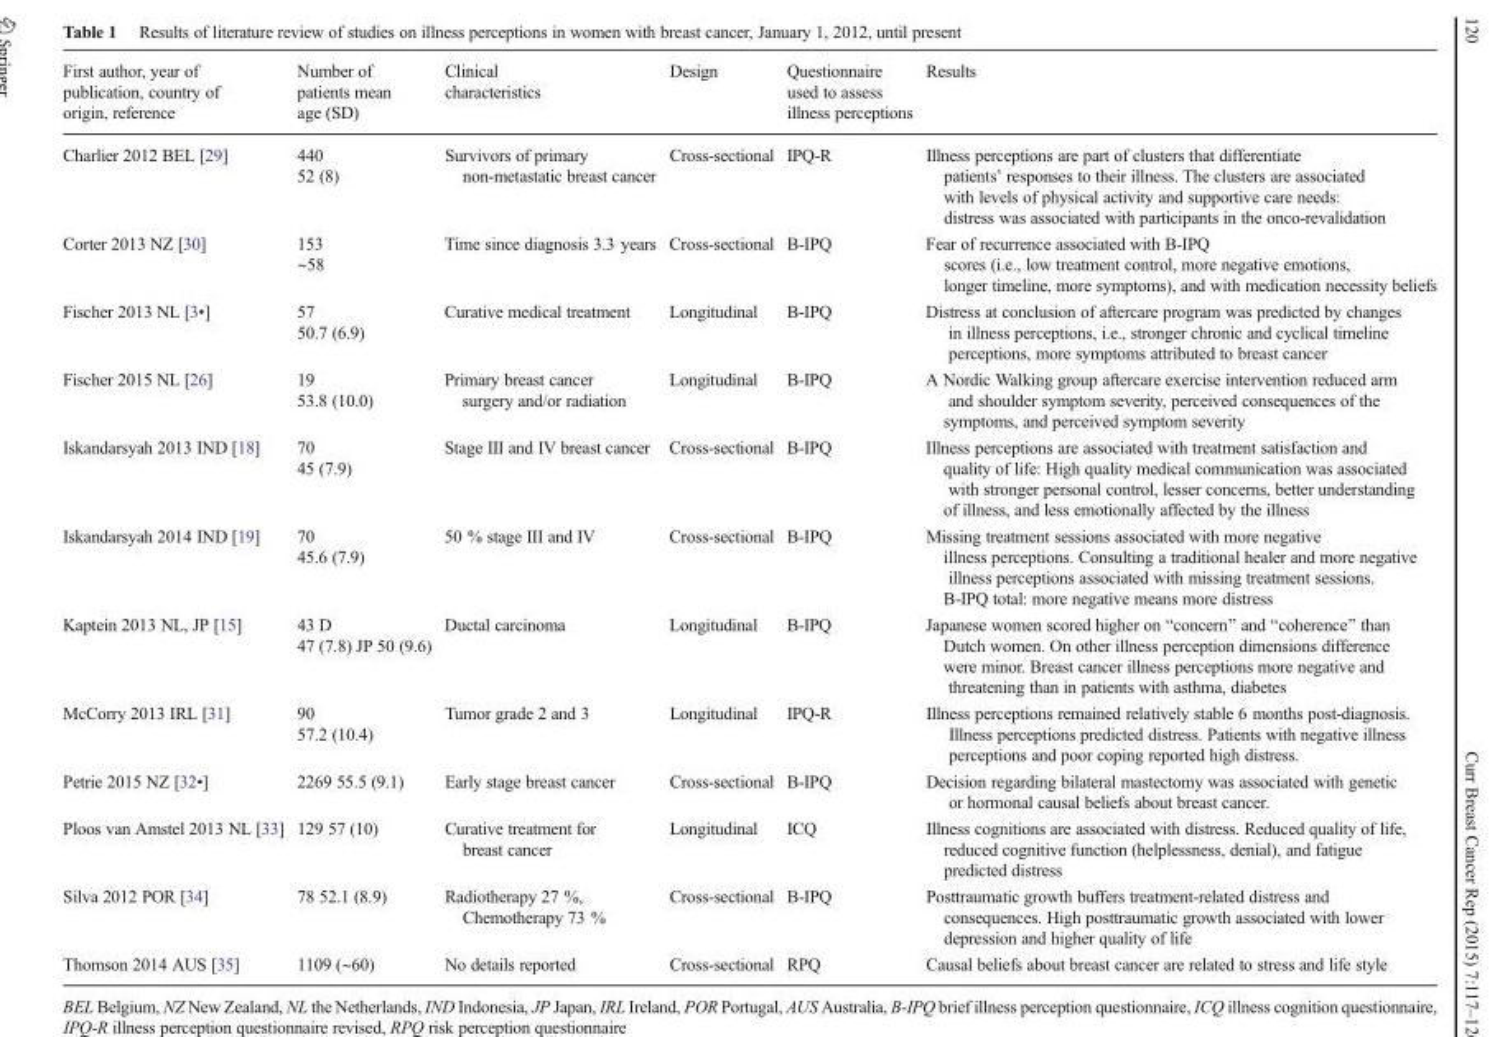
<table><thead><tr><td>First author, year of publication, country of origin, reference</td><td>Number of patients mean age (SD)</td><td>Clinical characteristics</td><td>Design</td><td>Questionnaire used to assess illness perceptions</td><td>Results</td></tr></thead><tbody><tr><td>Charlier 2012 BEL [29]</td><td>440 52 (8)</td><td>Survivors of primary non-metastatic breast cancer</td><td>Cross-sectional</td><td>IPQ-R</td><td>Illness perceptions are part of clusters that differentiate patients’ responses to their illness. The clusters are associated with levels of physical activity and supportive care needs: distress was associated with participants in the onco-revalidation</td></tr><tr><td>Corter 2013 NZ [30]</td><td>153 ∼58</td><td>Time since diagnosis 3.3 years</td><td>Cross-sectional</td><td>B-IPQ</td><td>Fear of recurrence associated with B-IPQ scores (i.e., low treatment control, more negative emotions, longer timeline, more symptoms), and with medication necessity beliefs</td></tr><tr><td>Fischer 2013 NL [3•]</td><td>57 50.7 (6.9)</td><td>Curative medical treatment</td><td>Longitudinal</td><td>B-IPQ</td><td>Distress at conclusion of aftercare program was predicted by changes in illness perceptions, i.e., stronger chronic and cyclical timeline perceptions, more symptoms attributed to breast cancer</td></tr><tr><td>Fischer 2015 NL [26]</td><td>19 53.8 (10.0)</td><td>Primary breast cancer surgery and/or radiation</td><td>Longitudinal</td><td>B-IPQ</td><td>A Nordic Walking group aftercare exercise intervention reduced arm and shoulder symptom severity, perceived consequences of the symptoms, and perceived symptom severity</td></tr><tr><td>Iskandarsyah 2013 IND [18]</td><td>70 45 (7.9)</td><td>Stage III and IV breast cancer</td><td>Cross-sectional</td><td>B-IPQ</td><td>Illness perceptions are associated with treatment satisfaction and quality of life: High quality medical communication was associated with stronger personal control, lesser concerns, better understanding of illness, and less emotionally affected by the illness</td></tr><tr><td>Iskandarsyah 2014 IND [19]</td><td>70 45.6 (7.9)</td><td>50 % stage III and IV</td><td>Cross-sectional</td><td>B-IPQ</td><td>Missing treatment sessions associated with more negative illness perceptions. Consulting a traditional healer and more negative illness perceptions associated with missing treatment sessions. B-IPQ total: more negative means more distress</td></tr><tr><td>Kaptein 2013 NL, JP [15]</td><td>43 D 47 (7.8) JP 50 (9.6)</td><td>Ductal carcinoma</td><td>Longitudinal</td><td>B-IPQ</td><td>Japanese women scored higher on “concern” and “coherence” than Dutch women. On other illness perception dimensions difference were minor. Breast cancer illness perceptions more negative and threatening than in patients with asthma, diabetes</td></tr><tr><td>McCorry 2013 IRL [31]</td><td>90 57.2 (10.4)</td><td>Tumor grade 2 and 3</td><td>Longitudinal</td><td>IPQ-R</td><td>Illness perceptions remained relatively stable 6 months post-diagnosis. Illness perceptions predicted distress. Patients with negative illness perceptions and poor coping reported high distress.</td></tr><tr><td>Petrie 2015 NZ [32•]</td><td>2269 55.5 (9.1)</td><td>Early stage breast cancer</td><td>Cross-sectional</td><td>B-IPQ</td><td>Decision regarding bilateral mastectomy was associated with genetic or hormonal causal beliefs about breast cancer.</td></tr><tr><td>Ploos van Amstel 2013 NL [33]</td><td>129 57 (10)</td><td>Curative treatment for breast cancer</td><td>Longitudinal</td><td>ICQ</td><td>Illness cognitions are associated with distress. Reduced quality of life, reduced cognitive function (helplessness, denial), and fatigue predicted distress</td></tr><tr><td>Silva 2012 POR [34]</td><td>78 52.1 (8.9)</td><td>Radiotherapy 27 %, Chemotherapy 73 %</td><td>Cross-sectional</td><td>B-IPQ</td><td>Posttraumatic growth buffers treatment-related distress and consequences. High posttraumatic growth associated with lower depression and higher quality of life</td></tr><tr><td>Thomson 2014 AUS [35]</td><td>1109 (∼60)</td><td>No details reported</td><td>Cross-sectional</td><td>RPQ</td><td>Causal beliefs about breast cancer are related to stress and life style</td></tr></tbody></table>